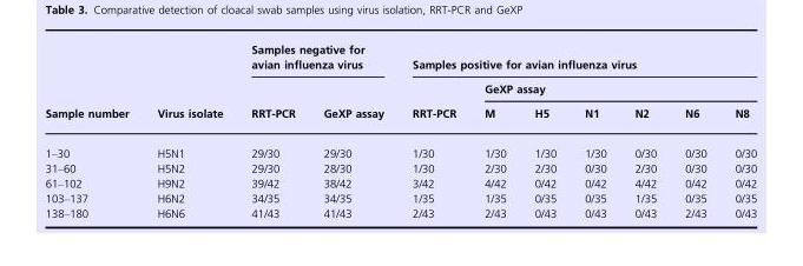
<table><thead><tr><td rowspan="3">Sample number</td><td rowspan="3">Virus isolate</td><td colspan="2">Samples negative for avian influenza virus</td><td colspan="7">Samples positive for avian influenza virus</td></tr><tr><td rowspan="2">RRT-PCR</td><td rowspan="2">GeXP assay</td><td rowspan="2">RRT-PCR</td><td colspan="6">GeXP assay</td></tr><tr><td>M</td><td>H5</td><td>N1</td><td>N2</td><td>N6</td><td>N8</td></tr></thead><tbody><tr><td>1–30</td><td>H5N1</td><td>29/30</td><td>29/30</td><td>1/30</td><td>1/30</td><td>1/30</td><td>1/30</td><td>0/30</td><td>0/30</td><td>0/30</td></tr><tr><td>31–60</td><td>H5N2</td><td>29/30</td><td>28/30</td><td>1/30</td><td>2/30</td><td>2/30</td><td>0/30</td><td>2/30</td><td>0/30</td><td>0/30</td></tr><tr><td>61–102</td><td>H9N2</td><td>39/42</td><td>38/42</td><td>3/42</td><td>4/42</td><td>0/42</td><td>0/42</td><td>4/42</td><td>0/42</td><td>0/42</td></tr><tr><td>103–137</td><td>H6N2</td><td>34/35</td><td>34/35</td><td>1/35</td><td>1/35</td><td>0/35</td><td>0/35</td><td>1/35</td><td>0/35</td><td>0/35</td></tr><tr><td>138–180</td><td>H6N6</td><td>41/43</td><td>41/43</td><td>2/43</td><td>2/43</td><td>0/43</td><td>0/43</td><td>0/43</td><td>2/43</td><td>0/43</td></tr></tbody></table>